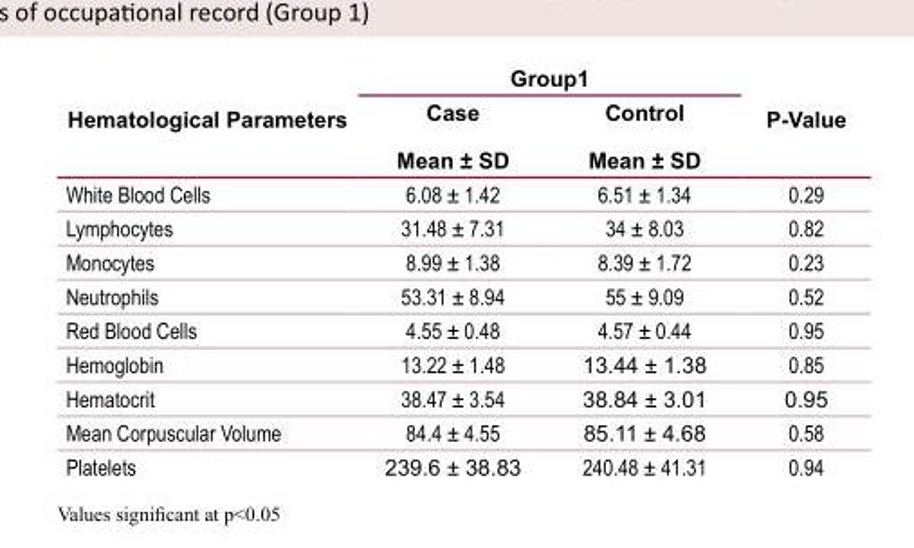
<table><thead><tr><td rowspan="2">Hematological Parameters</td><td colspan="2">Group1</td><td rowspan="2">P-Value</td></tr><tr><td>Case Mean ± SD</td><td>Control Mean ± SD</td></tr></thead><tbody><tr><td>White Blood Cells</td><td>6.08 ± 1.42</td><td>6.51 ± 1.34</td><td>0.29</td></tr><tr><td>Lymphocytes</td><td>31.48 ± 7.31</td><td>34 ± 8.03</td><td>0.82</td></tr><tr><td>Monocytes</td><td>8.99 ± 1.38</td><td>8.39 ± 1.72</td><td>0.23</td></tr><tr><td>Neutrophils</td><td>53.31 ± 8.94</td><td>55 ± 9.09</td><td>0.52</td></tr><tr><td>Red Blood Cells</td><td>4.55 ± 0.48</td><td>4.57 ± 0.44</td><td>0.95</td></tr><tr><td>Hemoglobin</td><td>13.22 ± 1.48</td><td>13.44 ± 1.38</td><td>0.85</td></tr><tr><td>Hematocrit</td><td>38.47 ± 3.54</td><td>38.84 ± 3.01</td><td>0.95</td></tr><tr><td>Mean Corpuscular Volume</td><td>84.4 ± 4.55</td><td>85.11 ± 4.68</td><td>0.58</td></tr><tr><td>Platelets</td><td>239.6 ± 38.83</td><td>240.48 ± 41.31</td><td>0.94</td></tr></tbody></table>